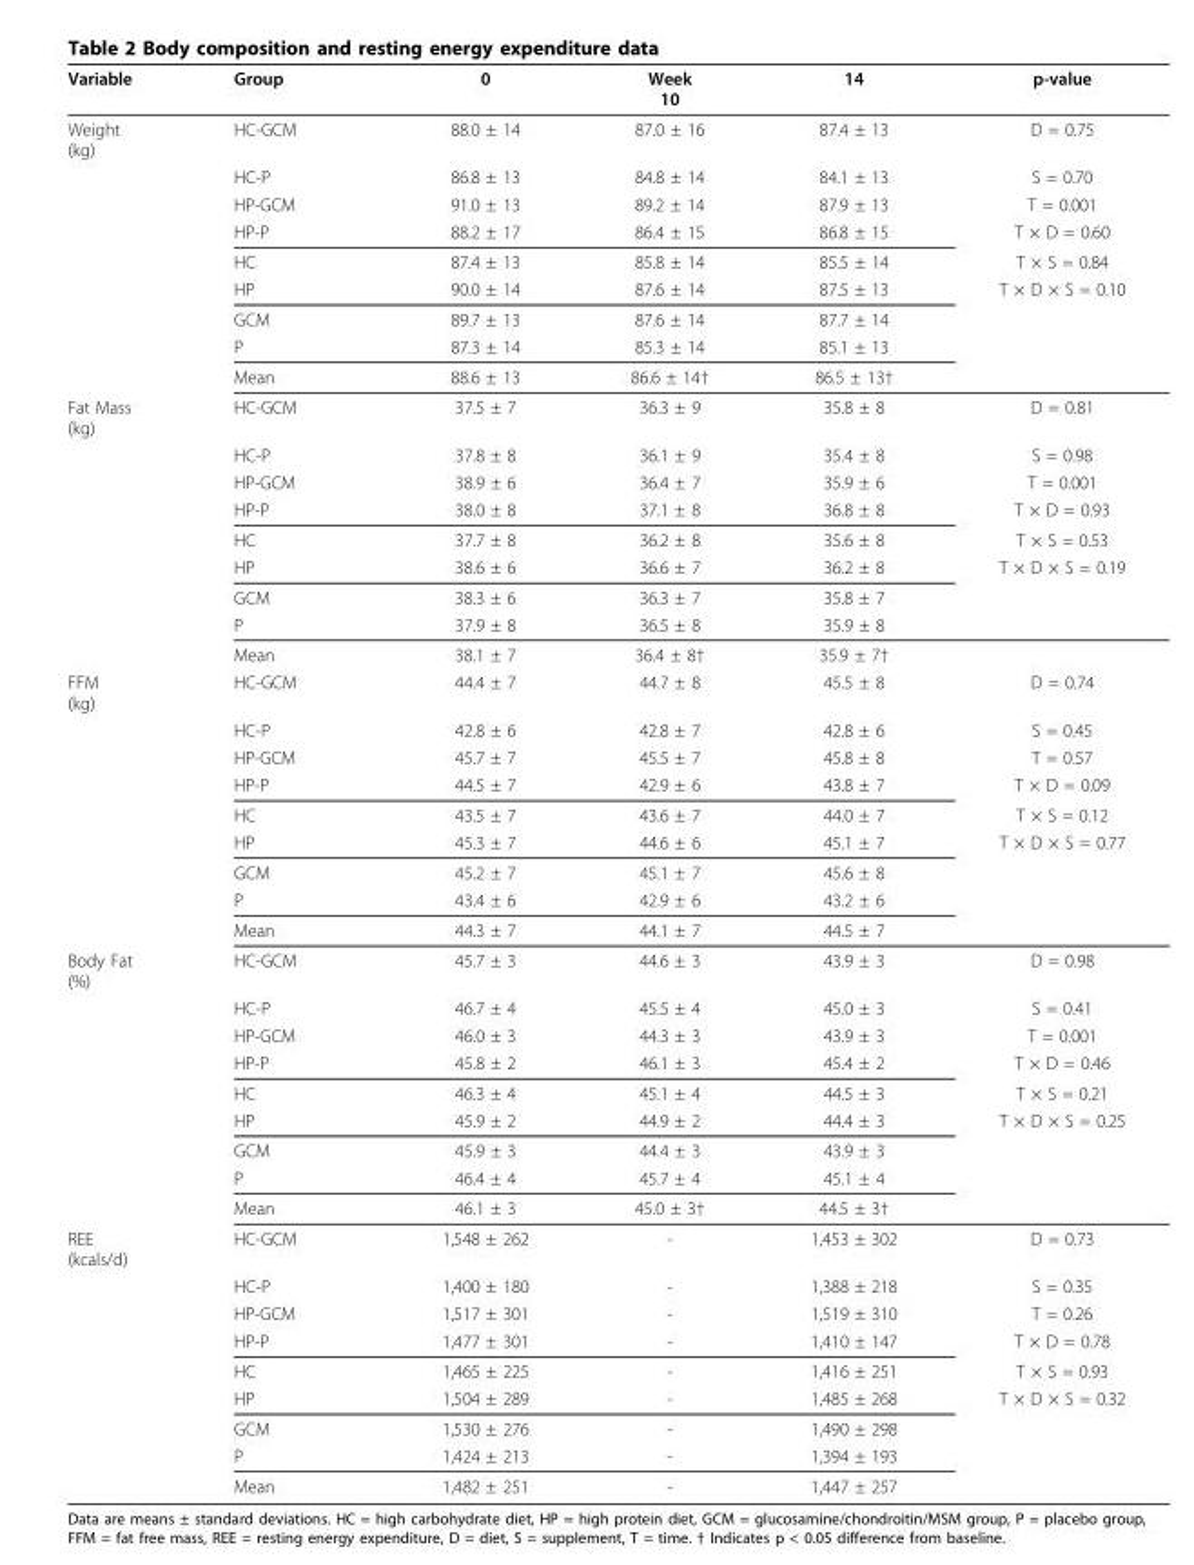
<table><thead><tr><td>Variable</td><td>Group</td><td>0</td><td>Week 10</td><td>14</td><td>p-value</td></tr></thead><tbody><tr><td rowspan="9">Weight (kg)</td><td>HC-GCM</td><td>88.0 ± 14</td><td>87.0 ± 16</td><td>87.4 ± 13</td><td>D = 0.75</td></tr><tr><td>HC-P</td><td>86.8 ± 13</td><td>84.8 ± 14</td><td>84.1 ± 13</td><td>S = 0.70</td></tr><tr><td>HP-GCM</td><td>91.0 ± 13</td><td>89.2 ± 14</td><td>87.9 ± 13</td><td>T = 0.001</td></tr><tr><td>HP-P</td><td>88.2 ± 17</td><td>86.4 ± 15</td><td>86.8 ± 15</td><td>T × D = 0.60</td></tr><tr><td>HC</td><td>87.4 ± 13</td><td>85.8 ± 14</td><td>85.5 ± 14</td><td>T × S = 0.84</td></tr><tr><td>HP</td><td>90.0 ± 14</td><td>87.6 ± 14</td><td>87.5 ± 13</td><td>T × D × S = 0.10</td></tr><tr><td>GCM</td><td>89.7 ± 13</td><td>87.6 ± 14</td><td>87.7 ± 14</td><td></td></tr><tr><td>P</td><td>87.3 ± 14</td><td>85.3 ± 14</td><td>85.1 ± 13</td><td></td></tr><tr><td>Mean</td><td>88.6 ± 13</td><td>86.6 ± 14†</td><td>86.5 ± 13†</td><td></td></tr><tr><td rowspan="9">Fat Mass (kg)</td><td>HC-GCM</td><td>37.5 ± 7</td><td>36.3 ± 9</td><td>35.8 ± 8</td><td>D = 0.81</td></tr><tr><td>HC-P</td><td>37.8 ± 8</td><td>36.1 ± 9</td><td>35.4 ± 8</td><td>S = 0.98</td></tr><tr><td>HP-GCM</td><td>38.9 ± 6</td><td>36.4 ± 7</td><td>35.9 ± 6</td><td>T = 0.001</td></tr><tr><td>HP-P</td><td>38.0 ± 8</td><td>37.1 ± 8</td><td>36.8 ± 8</td><td>T × D = 0.93</td></tr><tr><td>HC</td><td>37.7 ± 8</td><td>36.2 ± 8</td><td>35.6 ± 8</td><td>T × S = 0.53</td></tr><tr><td>HP</td><td>38.6 ± 6</td><td>36.6 ± 7</td><td>36.2 ± 8</td><td>T × D × S = 0.19</td></tr><tr><td>GCM</td><td>38.3 ± 6</td><td>36.3 ± 7</td><td>35.8 ± 7</td><td></td></tr><tr><td>P</td><td>37.9 ± 8</td><td>36.5 ± 8</td><td>35.9 ± 8</td><td></td></tr><tr><td>Mean</td><td>38.1 ± 7</td><td>36.4 ± 8†</td><td>35.9 ± 7†</td><td></td></tr><tr><td rowspan="9">FFM (kg)</td><td>HC-GCM</td><td>44.4 ± 7</td><td>44.7 ± 8</td><td>45.5 ± 8</td><td>D = 0.74</td></tr><tr><td>HC-P</td><td>42.8 ± 6</td><td>42.8 ± 7</td><td>42.8 ± 6</td><td>S = 0.45</td></tr><tr><td>HP-GCM</td><td>45.7 ± 7</td><td>45.5 ± 7</td><td>45.8 ± 8</td><td>T = 0.57</td></tr><tr><td>HP-P</td><td>44.5 ± 7</td><td>42.9 ± 6</td><td>43.8 ± 7</td><td>T × D = 0.09</td></tr><tr><td>HC</td><td>43.5 ± 7</td><td>43.6 ± 7</td><td>44.0 ± 7</td><td>T × S = 0.12</td></tr><tr><td>HP</td><td>45.3 ± 7</td><td>44.6 ± 6</td><td>45.1 ± 7</td><td>T × D × S = 0.77</td></tr><tr><td>GCM</td><td>45.2 ± 7</td><td>45.1 ± 7</td><td>45.6 ± 8</td><td></td></tr><tr><td>P</td><td>43.4 ± 6</td><td>42.9 ± 6</td><td>43.2 ± 6</td><td></td></tr><tr><td>Mean</td><td>44.3 ± 7</td><td>44.1 ± 7</td><td>44.5 ± 7</td><td></td></tr><tr><td rowspan="9">Body Fat (%)</td><td>HC-GCM</td><td>45.7 ± 3</td><td>44.6 ± 3</td><td>43.9 ± 3</td><td>D = 0.98</td></tr><tr><td>HC-P</td><td>46.7 ± 4</td><td>45.5 ± 4</td><td>45.0 ± 3</td><td>S = 0.41</td></tr><tr><td>HP-GCM</td><td>46.0 ± 3</td><td>44.3 ± 3</td><td>43.9 ± 3</td><td>T = 0.001</td></tr><tr><td>HP-P</td><td>45.8 ± 2</td><td>46.1 ± 3</td><td>45.4 ± 2</td><td>T × D = 0.46</td></tr><tr><td>HC</td><td>46.3 ± 4</td><td>45.1 ± 4</td><td>44.5 ± 3</td><td>T × S = 0.21</td></tr><tr><td>HP</td><td>45.9 ± 2</td><td>44.9 ± 2</td><td>44.4 ± 3</td><td>T × D × S = 0.25</td></tr><tr><td>GCM</td><td>45.9 ± 3</td><td>44.4 ± 3</td><td>43.9 ± 3</td><td></td></tr><tr><td>P</td><td>46.4 ± 4</td><td>45.7 ± 4</td><td>45.1 ± 4</td><td></td></tr><tr><td>Mean</td><td>46.1 ± 3</td><td>45.0 ± 3†</td><td>44.5 ± 3†</td><td></td></tr><tr><td rowspan="9">REE (kcals/d)</td><td>HC-GCM</td><td>1,548 ± 262</td><td>-</td><td>1,453 ± 302</td><td>D = 0.73</td></tr><tr><td>HC-P</td><td>1,400 ± 180</td><td>-</td><td>1,388 ± 218</td><td>S = 0.35</td></tr><tr><td>HP-GCM</td><td>1,517 ± 301</td><td>-</td><td>1,519 ± 310</td><td>T = 0.26</td></tr><tr><td>HP-P</td><td>1,477 ± 301</td><td>-</td><td>1,410 ± 147</td><td>T × D = 0.78</td></tr><tr><td>HC</td><td>1,465 ± 225</td><td>-</td><td>1,416 ± 251</td><td>T × S = 0.93</td></tr><tr><td>HP</td><td>1,504 ± 289</td><td>-</td><td>1,485 ± 268</td><td>T × D × S = 0.32</td></tr><tr><td>GCM</td><td>1,530 ± 276</td><td>-</td><td>1,490 ± 298</td><td></td></tr><tr><td>P</td><td>1,424 ± 213</td><td>-</td><td>1,394 ± 193</td><td></td></tr><tr><td>Mean</td><td>1,482 ± 251</td><td>-</td><td>1,447 ± 257</td><td></td></tr></tbody></table>